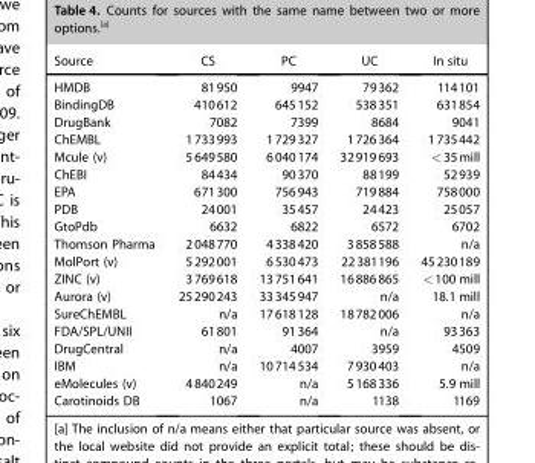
<table><thead><tr><td>Source</td><td>CS</td><td>PC</td><td>UC</td><td>In situ</td></tr></thead><tbody><tr><td>HMDB</td><td>81950</td><td>9947</td><td>79362</td><td>114101</td></tr><tr><td>BindingDB</td><td>410612</td><td>645152</td><td>538351</td><td>631854</td></tr><tr><td>DrugBank</td><td>7082</td><td>7399</td><td>8684</td><td>9041</td></tr><tr><td>ChEMBL</td><td>1733993</td><td>1729327</td><td>1726364</td><td>1735442</td></tr><tr><td>Mcule (v)</td><td>5649580</td><td>6040174</td><td>32919693</td><td>&lt;35mill</td></tr><tr><td>ChEBI</td><td>84434</td><td>90370</td><td>88199</td><td>52939</td></tr><tr><td>EPA</td><td>671300</td><td>756943</td><td>719884</td><td>758000</td></tr><tr><td>PDB</td><td>24001</td><td>35457</td><td>24423</td><td>25057</td></tr><tr><td>GtoPdb</td><td>6632</td><td>6822</td><td>6572</td><td>6702</td></tr><tr><td>Thomson Pharma</td><td>2048770</td><td>4338420</td><td>3858588</td><td>n/a</td></tr><tr><td>MolPort (v)</td><td>5292001</td><td>6530473</td><td>22381196</td><td>45230189</td></tr><tr><td>ZINC (v)</td><td>3769618</td><td>13751641</td><td>16886865</td><td>&lt;100 mill</td></tr><tr><td>Aurora (v)</td><td>25290243</td><td>33345947</td><td>n/a</td><td>18.1 mill</td></tr><tr><td>SureChEMBL</td><td>n/a</td><td>17618128</td><td>18782006</td><td>n/a</td></tr><tr><td>FDA/SPL/UNII</td><td>61801</td><td>91364</td><td>n/a</td><td>93363</td></tr><tr><td>DrugCentral</td><td>n/a</td><td>4007</td><td>3959</td><td>4509</td></tr><tr><td>IBM</td><td>n/a</td><td>10714534</td><td>7930403</td><td>n/a</td></tr><tr><td>eMolecules (v)</td><td>4840249</td><td>n/a</td><td>5168336</td><td>5.9 mill</td></tr><tr><td>Carotinoids DB</td><td>1067</td><td>n/a</td><td>1138</td><td>1169</td></tr></tbody></table>